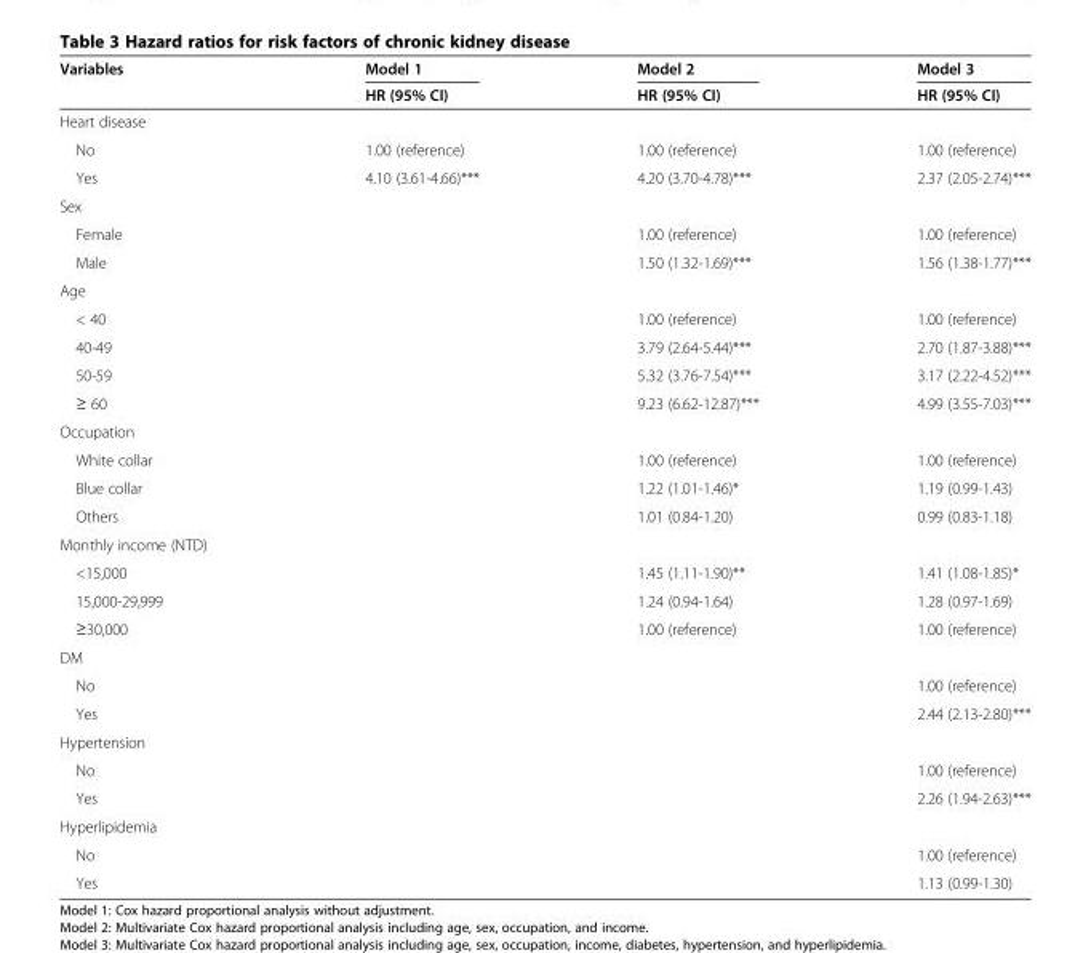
<table><thead><tr><td rowspan="2">Variables</td><td rowspan="2">Model 1 HR (95% CI)</td><td rowspan="2">Model 2 HR (95% CI)</td><td rowspan="2">Model 3 HR (95% CI)</td></tr><tr></tr></thead><tbody><tr><td colspan="4">Heart disease</td></tr><tr><td>No</td><td>1.00 (reference)</td><td>1.00 (reference)</td><td>1.00 (reference)</td></tr><tr><td>Yes</td><td>4.10 (3.61-4.66)***</td><td>4.20 (3.70-4.78)***</td><td>2.37 (2.05-2.74)***</td></tr><tr><td colspan="4">Sex</td></tr><tr><td>Female</td><td></td><td>1.00 (reference)</td><td>1.00 (reference)</td></tr><tr><td>Male</td><td></td><td>1.50 (1.32-1.69)***</td><td>1.56 (1.38-1.77)***</td></tr><tr><td colspan="4">Age</td></tr><tr><td>&lt; 40</td><td></td><td>1.00 (reference)</td><td>1.00 (reference)</td></tr><tr><td>40-49</td><td></td><td>3.79 (2.64-5.44)***</td><td>2.70 (1.87-3.88)***</td></tr><tr><td>50-59</td><td></td><td>5.32 (3.76-7.54)***</td><td>3.17 (2.22-4.52)***</td></tr><tr><td>≥ 60</td><td></td><td>9.23 (6.62-12.87)***</td><td>4.99 (3.55-7.03)***</td></tr><tr><td colspan="4">Occupation</td></tr><tr><td>White collar</td><td></td><td>1.00 (reference)</td><td>1.00 (reference)</td></tr><tr><td>Blue collar</td><td></td><td>1.22 (1.01-1.46)*</td><td>1.19 (0.99-1.43)</td></tr><tr><td>Others</td><td></td><td>1.01 (0.84-1.20)</td><td>0.99 (0.83-1.18)</td></tr><tr><td colspan="4">Monthly income (NTD)</td></tr><tr><td>&lt;15,000</td><td></td><td>1.45 (1.11-1.90)**</td><td>1.41 (1.08-1.85)*</td></tr><tr><td>15,000-29,999</td><td></td><td>1.24 (0.94-1.64)</td><td>1.28 (0.97-1.69)</td></tr><tr><td>≥30,000</td><td></td><td>1.00 (reference)</td><td>1.00 (reference)</td></tr><tr><td colspan="4">DM</td></tr><tr><td>No</td><td></td><td></td><td>1.00 (reference)</td></tr><tr><td>Yes</td><td></td><td></td><td>2.44 (2.13-2.80)***</td></tr><tr><td colspan="4">Hypertension</td></tr><tr><td>No</td><td></td><td></td><td>1.00 (reference)</td></tr><tr><td>Yes</td><td></td><td></td><td>2.26 (1.94-2.63)***</td></tr><tr><td colspan="4">Hyperlipidemia</td></tr><tr><td>No</td><td></td><td></td><td>1.00 (reference)</td></tr><tr><td>Yes</td><td></td><td></td><td>1.13 (0.99-1.30)</td></tr></tbody></table>